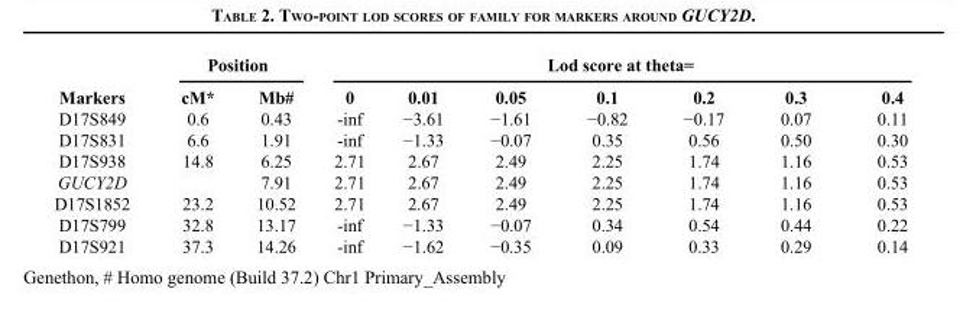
<table><thead><tr><td rowspan="2">Markers</td><td colspan="2">Position</td><td colspan="7">Lod score at theta=</td></tr><tr><td>cM*</td><td>Mb#</td><td>0</td><td>0.01</td><td>0.05</td><td>0.1</td><td>0.2</td><td>0.3</td><td>0.4</td></tr></thead><tbody><tr><td>D17S849</td><td>0.6</td><td>0.43</td><td>-inf</td><td>−3.61</td><td>−1.61</td><td>−0.82</td><td>−0.17</td><td>0.07</td><td>0.11</td></tr><tr><td>D17S831</td><td>6.6</td><td>1.91</td><td>-inf</td><td>−1.33</td><td>−0.07</td><td>0.35</td><td>0.56</td><td>0.50</td><td>0.30</td></tr><tr><td>D17S938</td><td>14.8</td><td>6.25</td><td>2.71</td><td>2.67</td><td>2.49</td><td>2.25</td><td>1.74</td><td>1.16</td><td>0.53</td></tr><tr><td>GUCY2D</td><td></td><td>7.91</td><td>2.71</td><td>2.67</td><td>2.49</td><td>2.25</td><td>1.74</td><td>1.16</td><td>0.53</td></tr><tr><td>D17S1852</td><td>23.2</td><td>10.52</td><td>2.71</td><td>2.67</td><td>2.49</td><td>2.25</td><td>1.74</td><td>1.16</td><td>0.53</td></tr><tr><td>D17S799</td><td>32.8</td><td>13.17</td><td>-inf</td><td>−1.33</td><td>−0.07</td><td>0.34</td><td>0.54</td><td>0.44</td><td>0.22</td></tr><tr><td>D17S921</td><td>37.3</td><td>14.26</td><td>-inf</td><td>−1.62</td><td>−0.35</td><td>0.09</td><td>0.33</td><td>0.29</td><td>0.14</td></tr></tbody></table>